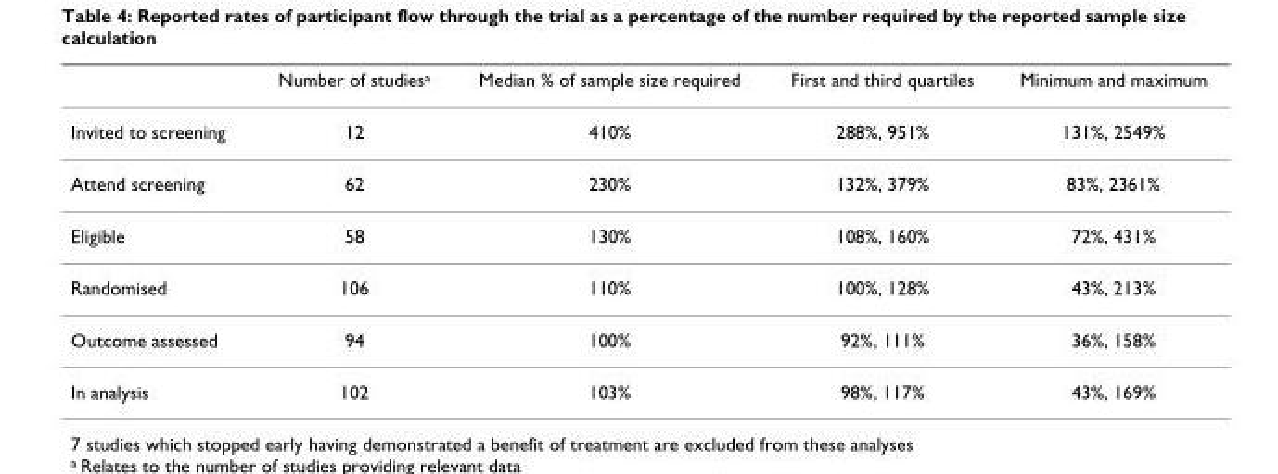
<table><thead><tr><td></td><td>Number of studies<sup>a</sup></td><td>Median % of sample size required</td><td>First and third quartiles</td><td>Minimum and maximum</td></tr></thead><tbody><tr><td>Invited to screening</td><td>12</td><td>410%</td><td>288%, 951%</td><td>131%, 2549%</td></tr><tr><td>Attend screening</td><td>62</td><td>230%</td><td>132%, 379%</td><td>83%, 2361%</td></tr><tr><td>Eligible</td><td>58</td><td>130%</td><td>108%, 160%</td><td>72%, 431%</td></tr><tr><td>Randomised</td><td>106</td><td>110%</td><td>100%, 128%</td><td>43%, 213%</td></tr><tr><td>Outcome assessed</td><td>94</td><td>100%</td><td>92%, 111%</td><td>36%, 158%</td></tr><tr><td>In analysis</td><td>102</td><td>103%</td><td>98%, 117%</td><td>43%, 169%</td></tr></tbody></table>